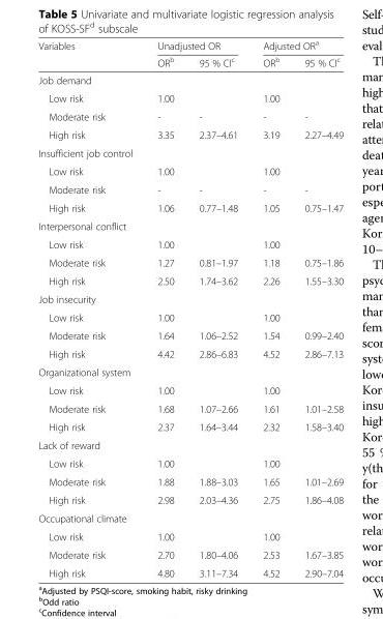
<table><thead><tr><td rowspan="2">Variables</td><td colspan="2">Unadjusted OR</td><td colspan="2">Adjusted OR<sup>a</sup></td></tr><tr><td>OR<sup>b</sup></td><td>95 % CI<sup>c</sup></td><td>OR<sup>b</sup></td><td>95 % CI<sup>c</sup></td></tr></thead><tbody><tr><td colspan="5">Job demand</td></tr><tr><td>Low risk</td><td>1.00</td><td></td><td>1.00</td><td></td></tr><tr><td>Moderate risk</td><td>-</td><td>-</td><td>-</td><td>-</td></tr><tr><td>High risk</td><td>3.35</td><td>2.37–4.61</td><td>3.19</td><td>2.27–4.49</td></tr><tr><td colspan="5">Insufficient job control</td></tr><tr><td>Low risk</td><td>1.00</td><td></td><td>1.00</td><td></td></tr><tr><td>Moderate risk</td><td>-</td><td>-</td><td>-</td><td>-</td></tr><tr><td>High risk</td><td>1.06</td><td>0.77–1.48</td><td>1.05</td><td>0.75–1.47</td></tr><tr><td colspan="5">Interpersonal conflict</td></tr><tr><td>Low risk</td><td>1.00</td><td></td><td>1.00</td><td></td></tr><tr><td>Moderate risk</td><td>1.27</td><td>0.81–1.97</td><td>1.18</td><td>0.75–1.86</td></tr><tr><td>High risk</td><td>2.50</td><td>1.74–3.62</td><td>2.26</td><td>1.55–3.30</td></tr><tr><td colspan="5">Job insecurity</td></tr><tr><td>Low risk</td><td>1.00</td><td></td><td>1.00</td><td></td></tr><tr><td>Moderate risk</td><td>1.64</td><td>1.06–2.52</td><td>1.54</td><td>0.99–2.40</td></tr><tr><td>High risk</td><td>4.42</td><td>2.86–6.83</td><td>4.52</td><td>2.86–7.13</td></tr><tr><td colspan="5">Organizational system</td></tr><tr><td>Low risk</td><td>1.00</td><td></td><td>1.00</td><td></td></tr><tr><td>Moderate risk</td><td>1.68</td><td>1.07–2.66</td><td>1.61</td><td>1.01–2.58</td></tr><tr><td>High risk</td><td>2.37</td><td>1.64–3.44</td><td>2.32</td><td>1.58–3.40</td></tr><tr><td colspan="5">Lack of reward</td></tr><tr><td>Low risk</td><td>1.00</td><td></td><td>1.00</td><td></td></tr><tr><td>Moderate risk</td><td>1.88</td><td>1.88–3.03</td><td>1.65</td><td>1.01–2.69</td></tr><tr><td>High risk</td><td>2.98</td><td>2.03–4.36</td><td>2.75</td><td>1.86–4.08</td></tr><tr><td colspan="5">Occupational climate</td></tr><tr><td>Low risk</td><td>1.00</td><td></td><td>1.00</td><td></td></tr><tr><td>Moderate risk</td><td>2.70</td><td>1.80–4.06</td><td>2.53</td><td>1.67–3.85</td></tr><tr><td>High risk</td><td>4.80</td><td>3.11–7.34</td><td>4.52</td><td>2.90–7.04</td></tr></tbody></table>